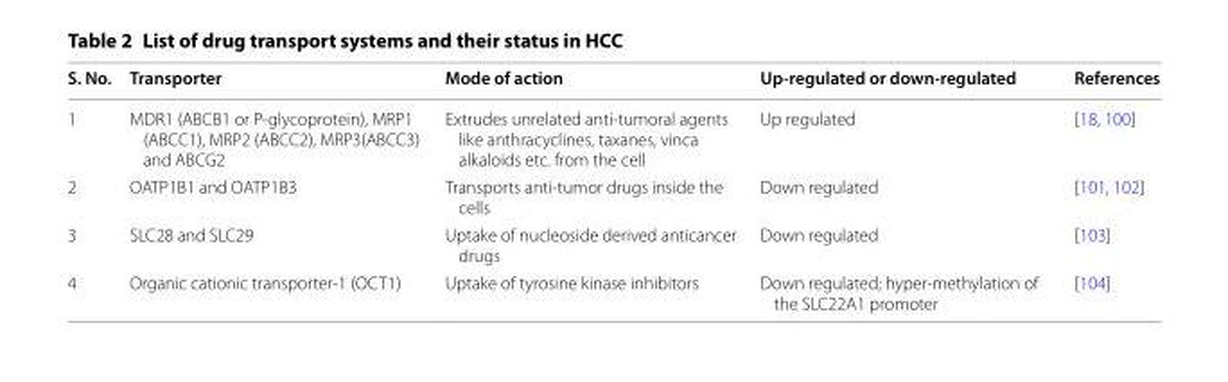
<table><thead><tr><td>S. No.</td><td>Transporter</td><td>Mode of action</td><td>Up-regulated or down-regulated</td><td>References</td></tr></thead><tbody><tr><td>1</td><td>MDR1 (ABCB1 or P‑glycoprotein), MRP1 (ABCC1), MRP2 (ABCC2), MRP3(ABCC3) and ABCG2</td><td>Extrudes unrelated anti‑tumoral agents like anthracyclines, taxanes, vinca alkaloids etc. from the cell</td><td>Up regulated</td><td>[18, 100]</td></tr><tr><td>2</td><td>OATP1B1 and OATP1B3</td><td>Transports anti‑tumor drugs inside the cells</td><td>Down regulated</td><td>[101, 102]</td></tr><tr><td>3</td><td>SLC28 and SLC29</td><td>Uptake of nucleoside derived anticancer drugs</td><td>Down regulated</td><td>[103]</td></tr><tr><td>4</td><td>Organic cationic transporter‑1 (OCT1)</td><td>Uptake of tyrosine kinase inhibitors</td><td>Down regulated; hyper‑methylation of the SLC22A1 promoter</td><td>[104]</td></tr></tbody></table>